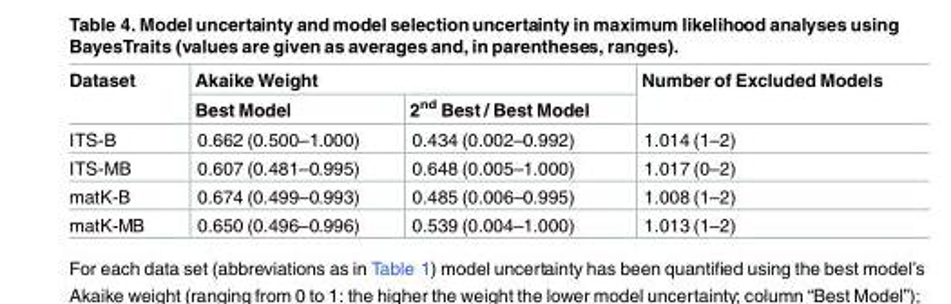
<table><thead><tr><td rowspan="2">Dataset</td><td colspan="2">Akaike Weight</td><td rowspan="2">Number of Excluded Models</td></tr><tr><td>Best Model</td><td>2<sup>nd</sup> Best / Best Model</td></tr></thead><tbody><tr><td>ITS-B</td><td>0.662 (0.500–1.000)</td><td>0.434 (0.002–0.992)</td><td>1.014 (1–2)</td></tr><tr><td>ITS-MB</td><td>0.607 (0.481–0.995)</td><td>0.648 (0.005–1.000)</td><td>1.017 (0–2)</td></tr><tr><td>matK-B</td><td>0.674 (0.499–0.993)</td><td>0.485 (0.006–0.995)</td><td>1.008 (1–2)</td></tr><tr><td>matK-MB</td><td>0.650 (0.496–0.996)</td><td>0.539 (0.004–1.000)</td><td>1.013 (1–2)</td></tr></tbody></table>